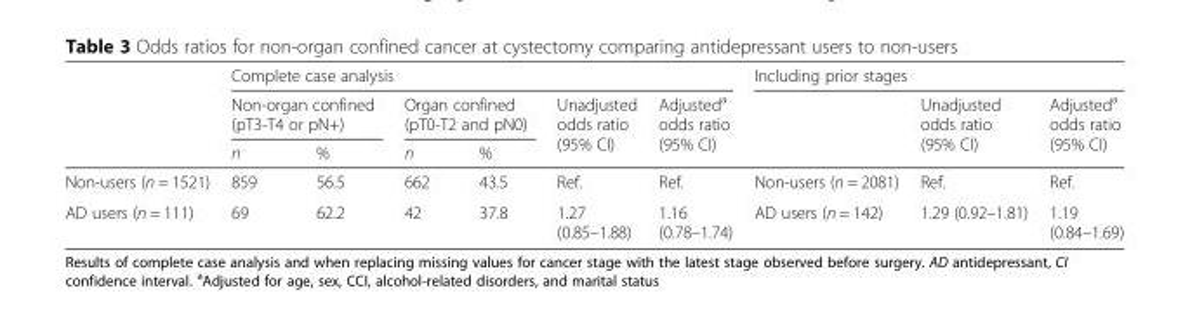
<table><thead><tr><td rowspan="3"></td><td colspan="6">Complete case analysis</td><td colspan="3">Including prior stages</td></tr><tr><td colspan="2">Non-organ confined (pT3-T4 or pN+)</td><td colspan="2">Organ confined (pT0-T2 and pN0)</td><td rowspan="2">Unadjusted odds ratio (95% CI)</td><td rowspan="2">Adjusted<sup>a</sup> odds ratio (95% CI)</td><td rowspan="2"></td><td rowspan="2">Unadjusted odds ratio (95% CI)</td><td rowspan="2">Adjusted<sup>a</sup> odds ratio (95% CI)</td></tr><tr><td>n</td><td>%</td><td>n</td><td>%</td></tr></thead><tbody><tr><td>Non-users (n = 1521)</td><td>859</td><td>56.5</td><td>662</td><td>43.5</td><td>Ref.</td><td>Ref.</td><td>Non-users (n = 2081)</td><td>Ref.</td><td>Ref.</td></tr><tr><td>AD users (n = 111)</td><td>69</td><td>62.2</td><td>42</td><td>37.8</td><td>1.27 (0.85–1.88)</td><td>1.16 (0.78–1.74)</td><td>AD users (n = 142)</td><td>1.29 (0.92–1.81)</td><td>1.19 (0.84–1.69)</td></tr></tbody></table>